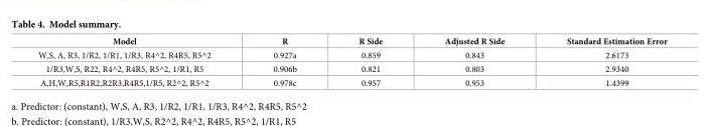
<table><thead><tr><td>Model</td><td>R</td><td>R Side</td><td>Adjusted R Side</td><td>Standard Estimation Error</td></tr></thead><tbody><tr><td>W,S, A, R3, 1/R2, 1/R1, 1/R3, R4^2, R4R5, R5^2</td><td>0.927<sup>a</sup></td><td>0.859</td><td>0.843</td><td>2.6173</td></tr><tr><td>1/R3,W,S, R22, R4^2, R4R5, R5^2, 1/R1, R5</td><td>0.906<sup>b</sup></td><td>0.821</td><td>0.803</td><td>2.9340</td></tr><tr><td>A,H,W,R5,R1R2,R2R3,R4R5,1/R5, R2^2, R5^2</td><td>0.978<sup>c</sup></td><td>0.957</td><td>0.953</td><td>1.4399</td></tr></tbody></table>